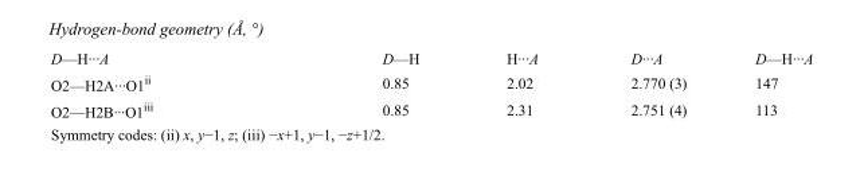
<table><tbody><tr><td>D—H···A</td><td>D—H</td><td>H···A</td><td>D···A</td><td>D—H···A</td></tr><tr><td>O2—H2A···O1<sup>ii</sup></td><td>0.85</td><td>2.02</td><td>2.770 (3)</td><td>147</td></tr><tr><td>O2—H2B···O1<sup>iii</sup></td><td>0.85</td><td>2.31</td><td>2.751 (4)</td><td>113</td></tr></tbody></table>